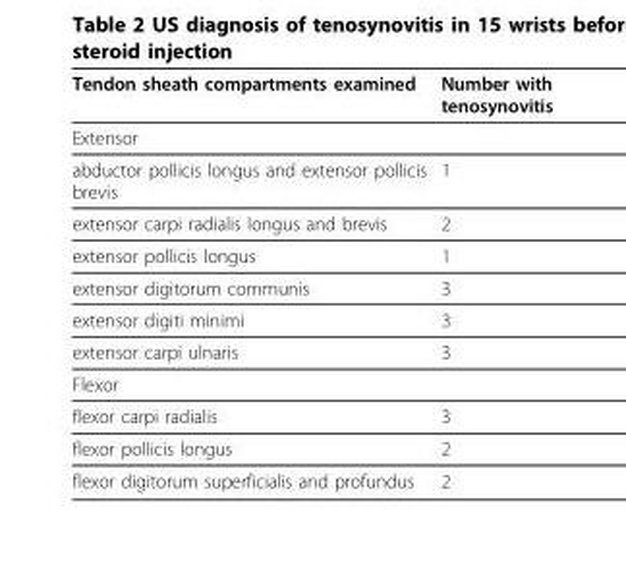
<table><thead><tr><td>Tendon sheath compartments examined</td><td>Number with tenosynovitis</td></tr></thead><tbody><tr><td colspan="2">Extensor</td></tr><tr><td>abductor pollicis longus and extensor pollicis brevis</td><td>1</td></tr><tr><td>extensor carpi radialis longus and brevis</td><td>2</td></tr><tr><td>extensor pollicis longus</td><td>1</td></tr><tr><td>extensor digitorum communis</td><td>3</td></tr><tr><td>extensor digiti minimi</td><td>3</td></tr><tr><td>extensor carpi ulnaris</td><td>3</td></tr><tr><td colspan="2">Flexor</td></tr><tr><td>flexor carpi radialis</td><td>3</td></tr><tr><td>flexor pollicis longus</td><td>2</td></tr><tr><td>flexor digitorum superficialis and profundus</td><td>2</td></tr></tbody></table>